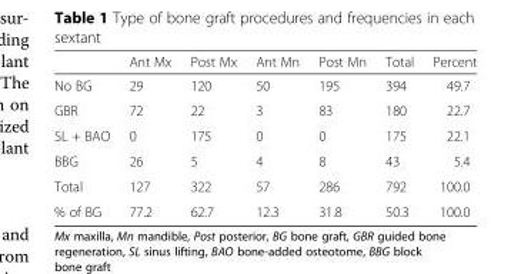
<table><thead><tr><td></td><td>Ant Mx</td><td>Post Mx</td><td>Ant Mn</td><td>Post Mn</td><td>Total</td><td>Percent</td></tr></thead><tbody><tr><td>No BG</td><td>29</td><td>120</td><td>50</td><td>195</td><td>394</td><td>49.7</td></tr><tr><td>GBR</td><td>72</td><td>22</td><td>3</td><td>83</td><td>180</td><td>22.7</td></tr><tr><td>SL + BAO</td><td>0</td><td>175</td><td>0</td><td>0</td><td>175</td><td>22.1</td></tr><tr><td>BBG</td><td>26</td><td>5</td><td>4</td><td>8</td><td>43</td><td>5.4</td></tr><tr><td>Total</td><td>127</td><td>322</td><td>57</td><td>286</td><td>792</td><td>100.0</td></tr><tr><td>% of BG</td><td>77.2</td><td>62.7</td><td>12.3</td><td>31.8</td><td>50.3</td><td>100.0</td></tr></tbody></table>